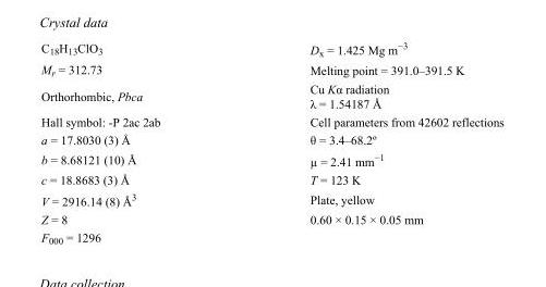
<table><tbody><tr><td>C<sub>18</sub>H<sub>13</sub>ClO<sub>3</sub></td><td>D<sub>x</sub> = 1.425 Mg m<sup>−3</sup></td></tr><tr><td>M<sub>r</sub> = 312.73</td><td>Melting point = 391.0–391.5 K</td></tr><tr><td>Orthorhombic, Pbca</td><td>Cu Kα radiation λ = 1.54187 Å</td></tr><tr><td>Hall symbol: -P 2ac 2ab</td><td>Cell parameters from 42602 reflections</td></tr><tr><td>a = 17.8030 (3) Å</td><td>θ = 3.4–68.2º</td></tr><tr><td>b = 8.68121 (10) Å</td><td>µ = 2.41 mm<sup>−1</sup></td></tr><tr><td>c = 18.8683 (3) Å</td><td>T = 123 K</td></tr><tr><td>V = 2916.14 (8) Å<sup>3</sup></td><td>Plate, yellow</td></tr><tr><td>Z = 8</td><td>0.60 × 0.15 × 0.05 mm</td></tr><tr><td>F<sub>000</sub> = 1296</td><td></td></tr></tbody></table>